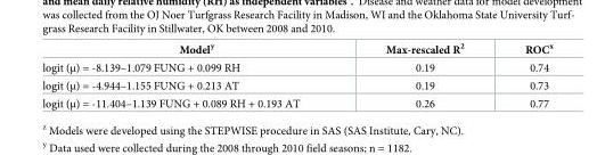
<table><thead><tr><td>Model<sup>y</sup></td><td>Max-rescaled R<sup>2</sup></td><td>ROC<sup>x</sup></td></tr></thead><tbody><tr><td>logit (μ) = -8.139–1.079 FUNG + 0.099 RH</td><td>0.19</td><td>0.74</td></tr><tr><td>logit (μ) = -4.944–1.155 FUNG + 0.213 AT</td><td>0.19</td><td>0.73</td></tr><tr><td>logit (μ) = -11.404–1.139 FUNG + 0.089 RH + 0.193 AT</td><td>0.26</td><td>0.77</td></tr></tbody></table>